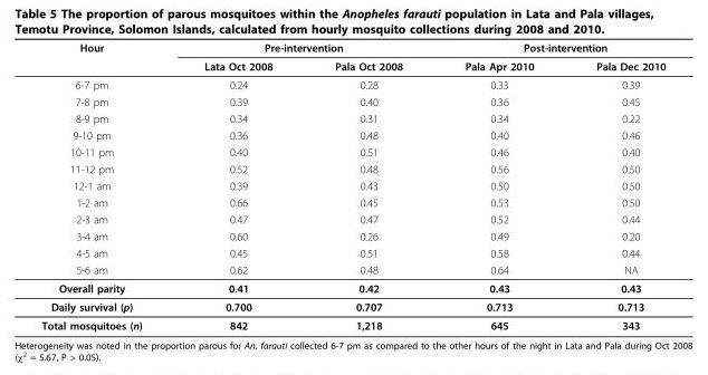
<table><thead><tr><td rowspan="2">Hour</td><td colspan="2">Pre-intervention</td><td colspan="2">Post-intervention</td></tr><tr><td>Lata Oct 2008</td><td>Pala Oct 2008</td><td>Pala Apr 2010</td><td>Pala Dec 2010</td></tr></thead><tbody><tr><td>6-7 pm</td><td>0.24</td><td>0.28</td><td>0.33</td><td>0.39</td></tr><tr><td>7-8 pm</td><td>0.39</td><td>0.40</td><td>0.36</td><td>0.45</td></tr><tr><td>8-9 pm</td><td>0.34</td><td>0.31</td><td>0.34</td><td>0.22</td></tr><tr><td>9-10 pm</td><td>0.36</td><td>0.48</td><td>0.40</td><td>0.46</td></tr><tr><td>10-11 pm</td><td>0.40</td><td>0.51</td><td>0.46</td><td>0.40</td></tr><tr><td>11-12 pm</td><td>0.52</td><td>0.48</td><td>0.56</td><td>0.50</td></tr><tr><td>12-1 am</td><td>0.39</td><td>0.43</td><td>0.50</td><td>0.50</td></tr><tr><td>1-2 am</td><td>0.66</td><td>0.45</td><td>0.53</td><td>0.50</td></tr><tr><td>2-3 am</td><td>0.47</td><td>0.47</td><td>0.52</td><td>0.44</td></tr><tr><td>3-4 am</td><td>0.60</td><td>0.26</td><td>0.49</td><td>0.20</td></tr><tr><td>4-5 am</td><td>0.45</td><td>0.51</td><td>0.58</td><td>0.44</td></tr><tr><td>5-6 am</td><td>0.62</td><td>0.48</td><td>0.64</td><td>NA</td></tr><tr><td>Overall parity</td><td>0.41</td><td>0.42</td><td>0.43</td><td>0.43</td></tr><tr><td>Daily survival (p)</td><td>0.700</td><td>0.707</td><td>0.713</td><td>0.713</td></tr><tr><td>Total mosquitoes (n)</td><td>842</td><td>1,218</td><td>645</td><td>343</td></tr></tbody></table>